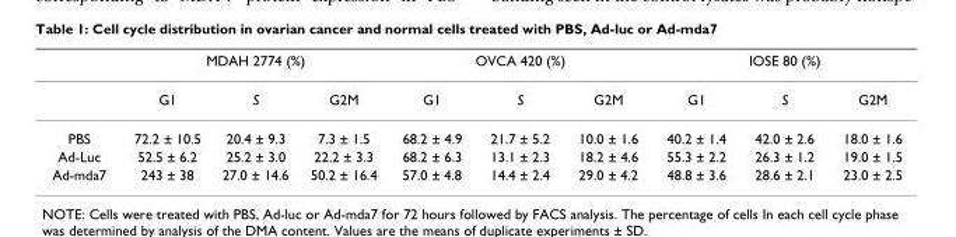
<table><thead><tr><td rowspan="2"></td><td colspan="3">MDAH 2774 (%)</td><td colspan="3">OVCA 420 (%)</td><td colspan="3">IOSE 80 (%)</td></tr><tr><td>G1</td><td>S</td><td>G2M</td><td>G1</td><td>S</td><td>G2M</td><td>G1</td><td>S</td><td>G2M</td></tr></thead><tbody><tr><td>PBS</td><td>72.2 ± 10.5</td><td>20.4 ± 9.3</td><td>7.3 ± 1.5</td><td>68.2 ± 4.9</td><td>21.7 ± 5.2</td><td>10.0 ± 1.6</td><td>40.2 ± 1.4</td><td>42.0 ± 2.6</td><td>18.0 ± 1.6</td></tr><tr><td>Ad-Luc</td><td>52.5 ± 6.2</td><td>25.2 ± 3.0</td><td>22.2 ± 3.3</td><td>68.2 ± 6.3</td><td>13.1 ± 2.3</td><td>18.2 ± 4.6</td><td>55.3 ± 2.2</td><td>26.3 ± 1.2</td><td>19.0 ± 1.5</td></tr><tr><td>Ad-mda7</td><td>243 ± 38</td><td>27.0 ± 14.6</td><td>50.2 ± 16.4</td><td>57.0 ± 4.8</td><td>14.4 ± 2.4</td><td>29.0 ± 4.2</td><td>48.8 ± 3.6</td><td>28.6 ± 2.1</td><td>23.0 ± 2.5</td></tr></tbody></table>